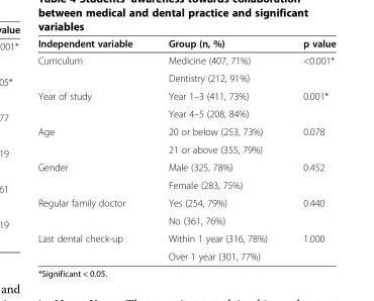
<table><thead><tr><td>Independent variable</td><td>Group (n, %)</td><td>p value</td></tr></thead><tbody><tr><td rowspan="2">Curriculum</td><td>Medicine (407, 71%)</td><td>&lt;0.001*</td></tr><tr><td>Dentistry (212, 91%)</td><td></td></tr><tr><td rowspan="2">Year of study</td><td>Year 1–3 (411, 73%)</td><td>0.001*</td></tr><tr><td>Year 4–5 (208, 84%)</td><td></td></tr><tr><td rowspan="2">Age</td><td>20 or below (253, 73%)</td><td>0.078</td></tr><tr><td>21 or above (355, 79%)</td><td></td></tr><tr><td rowspan="2">Gender</td><td>Male (325, 78%)</td><td>0.452</td></tr><tr><td>Female (283, 75%)</td><td></td></tr><tr><td rowspan="2">Regular family doctor</td><td>Yes (254, 79%)</td><td>0.440</td></tr><tr><td>No (361, 76%)</td><td></td></tr><tr><td rowspan="2">Last dental check-up</td><td>Within 1 year (316, 78%)</td><td>1.000</td></tr><tr><td>Over 1 year (301, 77%)</td><td></td></tr></tbody></table>